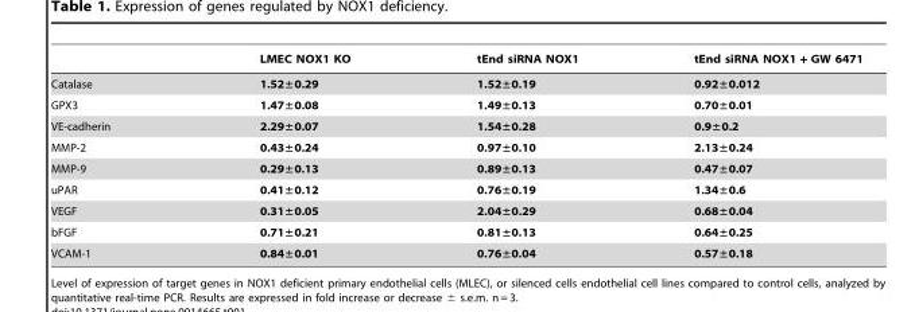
<table><thead><tr><td></td><td>LMEC NOX1 KO</td><td>tEnd siRNA NOX1</td><td>tEnd siRNA NOX1 + GW 6471</td></tr></thead><tbody><tr><td>Catalase</td><td>1.52±0.29</td><td>1.52±0.19</td><td>0.92±0.012</td></tr><tr><td>GPX3</td><td>1.47±0.08</td><td>1.49±0.13</td><td>0.70±0.01</td></tr><tr><td>VE-cadherin</td><td>2.29±0.07</td><td>1.54±0.28</td><td>0.9±0.2</td></tr><tr><td>MMP-2</td><td>0.43±0.24</td><td>0.97±0.10</td><td>2.13±0.24</td></tr><tr><td>MMP-9</td><td>0.29±0.13</td><td>0.89±0.13</td><td>0.47±0.07</td></tr><tr><td>uPAR</td><td>0.41±0.12</td><td>0.76±0.19</td><td>1.34±0.6</td></tr><tr><td>VEGF</td><td>0.31±0.05</td><td>2.04±0.29</td><td>0.68±0.04</td></tr><tr><td>bFGF</td><td>0.71±0.21</td><td>0.81±0.13</td><td>0.64±0.25</td></tr><tr><td>VCAM-1</td><td>0.84±0.01</td><td>0.76±0.04</td><td>0.57±0.18</td></tr></tbody></table>